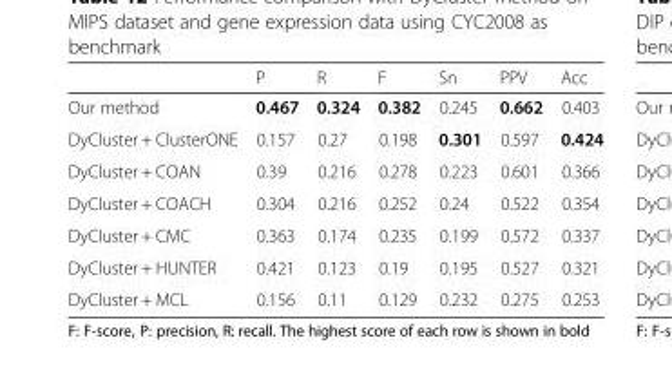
<table><thead><tr><td></td><td>P</td><td>R</td><td>F</td><td>Sn</td><td>PPV</td><td>Acc</td></tr></thead><tbody><tr><td>Our method</td><td>0.467</td><td>0.324</td><td>0.382</td><td>0.245</td><td>0.662</td><td>0.403</td></tr><tr><td>DyCluster + ClusterONE</td><td>0.157</td><td>0.27</td><td>0.198</td><td>0.301</td><td>0.597</td><td>0.424</td></tr><tr><td>DyCluster + COAN</td><td>0.39</td><td>0.216</td><td>0.278</td><td>0.223</td><td>0.601</td><td>0.366</td></tr><tr><td>DyCluster + COACH</td><td>0.304</td><td>0.216</td><td>0.252</td><td>0.24</td><td>0.522</td><td>0.354</td></tr><tr><td>DyCluster + CMC</td><td>0.363</td><td>0.174</td><td>0.235</td><td>0.199</td><td>0.572</td><td>0.337</td></tr><tr><td>DyCluster + HUNTER</td><td>0.421</td><td>0.123</td><td>0.19</td><td>0.195</td><td>0.527</td><td>0.321</td></tr><tr><td>DyCluster + MCL</td><td>0.156</td><td>0.11</td><td>0.129</td><td>0.232</td><td>0.275</td><td>0.253</td></tr></tbody></table>